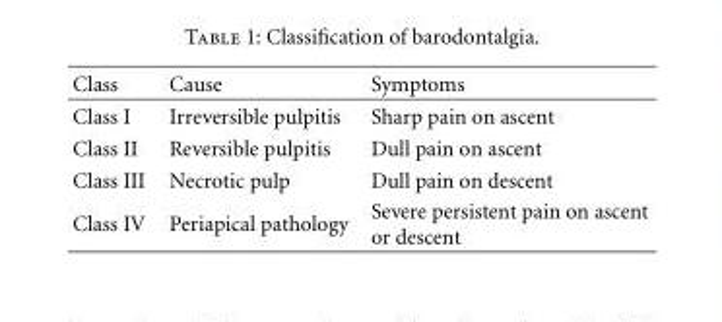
<table><thead><tr><td>Class</td><td>Cause</td><td>Symptoms</td></tr></thead><tbody><tr><td>Class I</td><td>Irreversible pulpitis</td><td>Sharp pain on ascent</td></tr><tr><td>Class II</td><td>Reversible pulpitis</td><td>Dull pain on ascent</td></tr><tr><td>Class III</td><td>Necrotic pulp</td><td>Dull pain on descent</td></tr><tr><td>Class IV</td><td>Periapical pathology</td><td>Severe persistent pain on ascent or descent</td></tr></tbody></table>